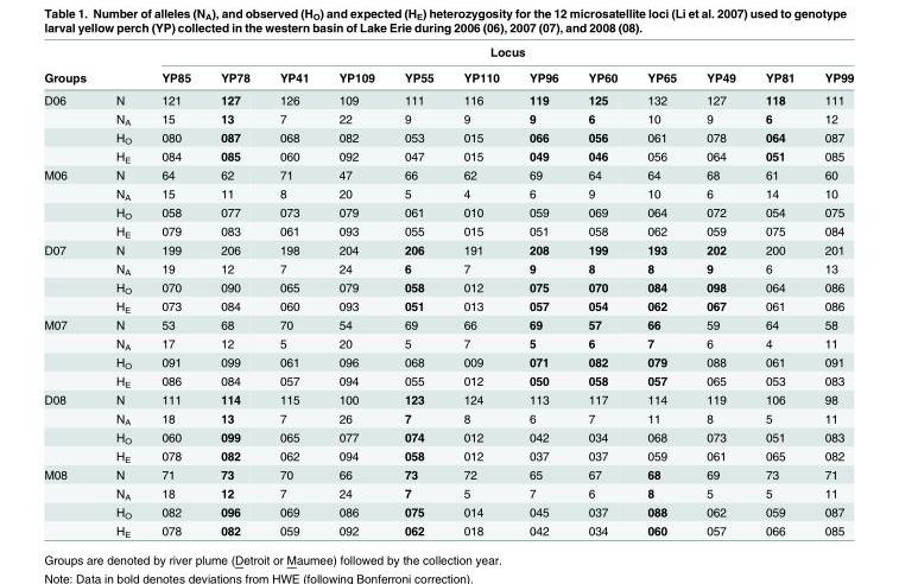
<table><thead><tr><td rowspan="2">Groups</td><td rowspan="2"></td><td colspan="12">Locus</td></tr><tr><td>YP85</td><td>YP78</td><td>YP41</td><td>YP109</td><td>YP55</td><td>YP110</td><td>YP96</td><td>YP60</td><td>YP65</td><td>YP49</td><td>YP81</td><td>YP99</td></tr></thead><tbody><tr><td rowspan="4">D06</td><td>N</td><td>121</td><td>127</td><td>126</td><td>109</td><td>111</td><td>116</td><td>119</td><td>125</td><td>132</td><td>127</td><td>118</td><td>111</td></tr><tr><td>N<sub>A</sub></td><td>15</td><td>13</td><td>7</td><td>22</td><td>9</td><td>9</td><td>9</td><td>6</td><td>10</td><td>9</td><td>6</td><td>12</td></tr><tr><td>H<sub>O</sub></td><td>080</td><td>087</td><td>068</td><td>082</td><td>053</td><td>015</td><td>066</td><td>056</td><td>061</td><td>078</td><td>064</td><td>087</td></tr><tr><td>H<sub>E</sub></td><td>084</td><td>085</td><td>060</td><td>092</td><td>047</td><td>015</td><td>049</td><td>046</td><td>056</td><td>064</td><td>051</td><td>085</td></tr><tr><td rowspan="4">M06</td><td>N</td><td>64</td><td>62</td><td>71</td><td>47</td><td>66</td><td>62</td><td>69</td><td>64</td><td>64</td><td>68</td><td>61</td><td>60</td></tr><tr><td>N<sub>A</sub></td><td>15</td><td>11</td><td>8</td><td>20</td><td>5</td><td>4</td><td>6</td><td>9</td><td>10</td><td>6</td><td>14</td><td>10</td></tr><tr><td>H<sub>O</sub></td><td>058</td><td>077</td><td>073</td><td>079</td><td>061</td><td>010</td><td>059</td><td>069</td><td>064</td><td>072</td><td>054</td><td>075</td></tr><tr><td>H<sub>E</sub></td><td>079</td><td>083</td><td>061</td><td>093</td><td>055</td><td>015</td><td>051</td><td>058</td><td>062</td><td>059</td><td>075</td><td>084</td></tr><tr><td rowspan="4">D07</td><td>N</td><td>199</td><td>206</td><td>198</td><td>204</td><td>206</td><td>191</td><td>208</td><td>199</td><td>193</td><td>202</td><td>200</td><td>201</td></tr><tr><td>N<sub>A</sub></td><td>19</td><td>12</td><td>7</td><td>24</td><td>6</td><td>7</td><td>9</td><td>8</td><td>8</td><td>9</td><td>6</td><td>13</td></tr><tr><td>H<sub>O</sub></td><td>070</td><td>090</td><td>065</td><td>079</td><td>058</td><td>012</td><td>075</td><td>070</td><td>084</td><td>098</td><td>064</td><td>086</td></tr><tr><td>H<sub>E</sub></td><td>073</td><td>084</td><td>060</td><td>093</td><td>051</td><td>013</td><td>057</td><td>054</td><td>062</td><td>067</td><td>061</td><td>086</td></tr><tr><td rowspan="4">M07</td><td>N</td><td>53</td><td>68</td><td>70</td><td>54</td><td>69</td><td>66</td><td>69</td><td>57</td><td>66</td><td>59</td><td>64</td><td>58</td></tr><tr><td>N<sub>A</sub></td><td>17</td><td>12</td><td>5</td><td>20</td><td>5</td><td>7</td><td>5</td><td>6</td><td>7</td><td>6</td><td>4</td><td>11</td></tr><tr><td>H<sub>O</sub></td><td>091</td><td>099</td><td>061</td><td>096</td><td>068</td><td>009</td><td>071</td><td>082</td><td>079</td><td>088</td><td>061</td><td>091</td></tr><tr><td>H<sub>E</sub></td><td>086</td><td>084</td><td>057</td><td>094</td><td>055</td><td>012</td><td>050</td><td>058</td><td>057</td><td>065</td><td>053</td><td>083</td></tr><tr><td rowspan="4">D08</td><td>N</td><td>111</td><td>114</td><td>115</td><td>100</td><td>123</td><td>124</td><td>113</td><td>117</td><td>114</td><td>119</td><td>106</td><td>98</td></tr><tr><td>N<sub>A</sub></td><td>18</td><td>13</td><td>7</td><td>26</td><td>7</td><td>8</td><td>6</td><td>7</td><td>11</td><td>8</td><td>5</td><td>11</td></tr><tr><td>H<sub>O</sub></td><td>060</td><td>099</td><td>065</td><td>077</td><td>074</td><td>012</td><td>042</td><td>034</td><td>068</td><td>073</td><td>051</td><td>083</td></tr><tr><td>H<sub>E</sub></td><td>078</td><td>082</td><td>062</td><td>094</td><td>058</td><td>012</td><td>037</td><td>037</td><td>059</td><td>061</td><td>065</td><td>082</td></tr><tr><td rowspan="4">M08</td><td>N</td><td>71</td><td>73</td><td>70</td><td>66</td><td>73</td><td>72</td><td>65</td><td>67</td><td>68</td><td>69</td><td>73</td><td>71</td></tr><tr><td>N<sub>A</sub></td><td>18</td><td>12</td><td>7</td><td>24</td><td>7</td><td>5</td><td>7</td><td>6</td><td>8</td><td>5</td><td>5</td><td>11</td></tr><tr><td>H<sub>O</sub></td><td>082</td><td>096</td><td>069</td><td>086</td><td>075</td><td>014</td><td>045</td><td>037</td><td>088</td><td>062</td><td>059</td><td>087</td></tr><tr><td>H<sub>E</sub></td><td>078</td><td>082</td><td>059</td><td>092</td><td>062</td><td>018</td><td>042</td><td>034</td><td>060</td><td>057</td><td>066</td><td>085</td></tr></tbody></table>